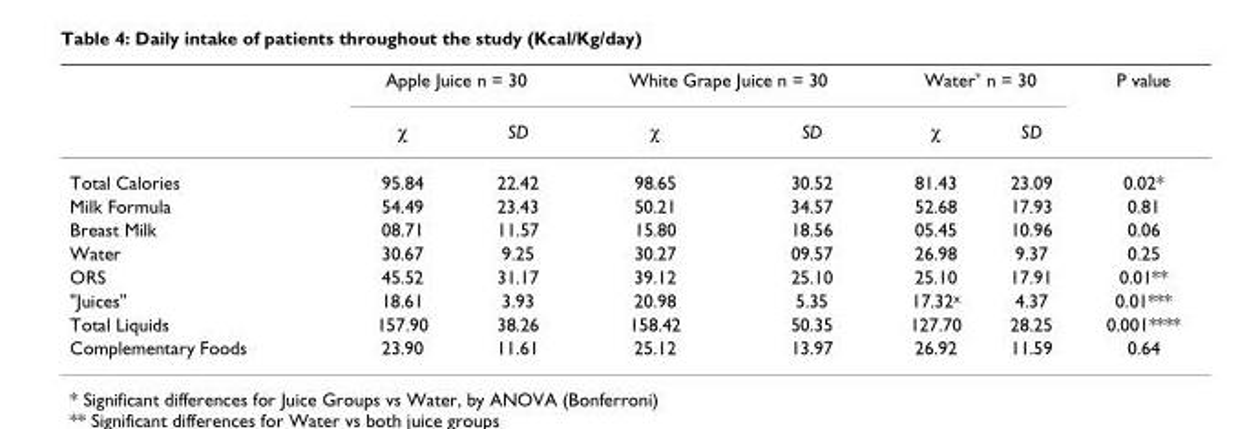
<table><thead><tr><td rowspan="2"></td><td colspan="2">Apple Juice n = 30</td><td colspan="2">White Grape Juice n = 30</td><td colspan="2">Water* n = 30</td><td rowspan="2">P value</td></tr><tr><td>χ</td><td>SD</td><td>χ</td><td>SD</td><td>χ</td><td>SD</td></tr></thead><tbody><tr><td>Total Calories</td><td>95.84</td><td>22.42</td><td>98.65</td><td>30.52</td><td>81.43</td><td>23.09</td><td>0.02*</td></tr><tr><td>Milk Formula</td><td>54.49</td><td>23.43</td><td>50.21</td><td>34.57</td><td>52.68</td><td>17.93</td><td>0.81</td></tr><tr><td>Breast Milk</td><td>08.71</td><td>11.57</td><td>15.80</td><td>18.56</td><td>05.45</td><td>10.96</td><td>0.06</td></tr><tr><td>Water</td><td>30.67</td><td>9.25</td><td>30.27</td><td>09.57</td><td>26.98</td><td>9.37</td><td>0.25</td></tr><tr><td>ORS</td><td>45.52</td><td>31.17</td><td>39.12</td><td>25.10</td><td>25.10</td><td>17.91</td><td>0.01**</td></tr><tr><td>&quot;Juices&quot;</td><td>18.61</td><td>3.93</td><td>20.98</td><td>5.35</td><td>17.32<sup>x</sup></td><td>4.37</td><td>0.01***</td></tr><tr><td>Total Liquids</td><td>157.90</td><td>38.26</td><td>158.42</td><td>50.35</td><td>127.70</td><td>28.25</td><td>0.001****</td></tr><tr><td>Complementary Foods</td><td>23.90</td><td>11.61</td><td>25.12</td><td>13.97</td><td>26.92</td><td>11.59</td><td>0.64</td></tr></tbody></table>